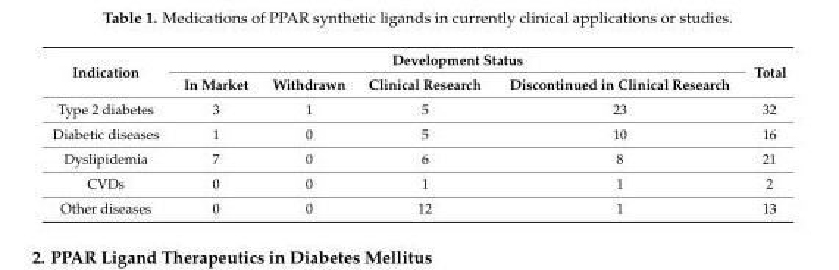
<table><thead><tr><td rowspan="2">Indication</td><td colspan="4">Development Status</td><td rowspan="2">Total</td></tr><tr><td>In Market</td><td>Withdrawn</td><td>Clinical Research</td><td>Discontinued in Clinical Research</td></tr></thead><tbody><tr><td>Type 2 diabetes</td><td>3</td><td>1</td><td>5</td><td>23</td><td>32</td></tr><tr><td>Diabetic diseases</td><td>1</td><td>0</td><td>5</td><td>10</td><td>16</td></tr><tr><td>Dyslipidemia</td><td>7</td><td>0</td><td>6</td><td>8</td><td>21</td></tr><tr><td>CVDs</td><td>0</td><td>0</td><td>1</td><td>1</td><td>2</td></tr><tr><td>Other diseases</td><td>0</td><td>0</td><td>12</td><td>1</td><td>13</td></tr></tbody></table>